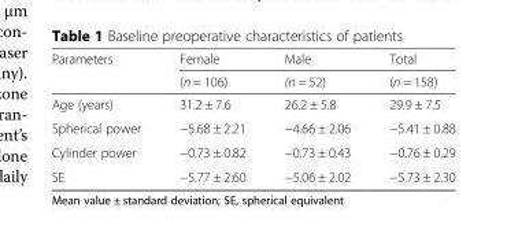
<table><thead><tr><td rowspan="2">Parameters</td><td rowspan="2">Female (n = 106)</td><td rowspan="2">Male (n = 52)</td><td rowspan="2">Total (n = 158)</td></tr><tr></tr></thead><tbody><tr><td>Age (years)</td><td>31.2 ± 7.6</td><td>26.2 ± 5.8</td><td>29.9 ± 7.5</td></tr><tr><td>Spherical power</td><td>−5.68 ± 2.21</td><td>−4.66 ± 2.06</td><td>−5.41 ± 0.88</td></tr><tr><td>Cylinder power</td><td>−0.73 ± 0.82</td><td>−0.73 ± 0.43</td><td>−0.76 ± 0.29</td></tr><tr><td>SE</td><td>−5.77 ± 2.60</td><td>−5.06 ± 2.02</td><td>−5.73 ± 2.30</td></tr></tbody></table>